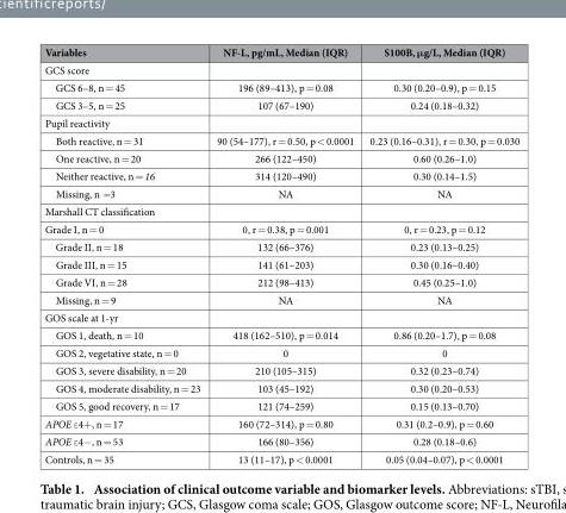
<table><thead><tr><td>Variables</td><td>NF-L, pg/mL, Median (IQR)</td><td>S100B, μg/L, Median (IQR)</td></tr></thead><tbody><tr><td colspan="3">GCS score</td></tr><tr><td>GCS 6–8, n = 45</td><td>196 (89–413), p = 0.08</td><td>0.30 (0.20–0.9), p = 0.15</td></tr><tr><td>GCS 3–5, n = 25</td><td>107 (67–190)</td><td>0.24 (0.18–0.32)</td></tr><tr><td colspan="3">Pupil reactivity</td></tr><tr><td>Both reactive, n = 31</td><td>90 (54–177), r = 0.50, p &lt; 0.0001</td><td>0.23 (0.16–0.31), r = 0.30, p = 0.030</td></tr><tr><td>One reactive, n = 20</td><td>266 (122–450)</td><td>0.60 (0.26–1.0)</td></tr><tr><td>Neither reactive, n = 16</td><td>314 (120–490)</td><td>0.30 (0.14–1.5)</td></tr><tr><td>Missing, n =3</td><td>NA</td><td>NA</td></tr><tr><td colspan="3">Marshall CT classification</td></tr><tr><td>Grade I, n = 0</td><td>0, r = 0.38, p = 0.001</td><td>0, r = 0.23, p = 0.12</td></tr><tr><td>Grade II, n = 18</td><td>132 (66–376)</td><td>0.23 (0.13–0.25)</td></tr><tr><td>Grade III, n = 15</td><td>141 (61–203)</td><td>0.30 (0.16–0.40)</td></tr><tr><td>Grade VI, n = 28</td><td>212 (98–413)</td><td>0.45 (0.25–1.0)</td></tr><tr><td>Missing, n = 9</td><td>NA</td><td>NA</td></tr><tr><td colspan="3">GOS scale at 1-yr</td></tr><tr><td>GOS 1, death, n = 10</td><td>418 (162–510), p = 0.014</td><td>0.86 (0.20–1.7), p = 0.08</td></tr><tr><td>GOS 2, vegetative state, n = 0</td><td>0</td><td>0</td></tr><tr><td>GOS 3, severe disability, n = 20</td><td>210 (105–315)</td><td>0.32 (0.23–0.74)</td></tr><tr><td>GOS 4, moderate disability, n = 23</td><td>103 (45–192)</td><td>0.30 (0.20–0.53)</td></tr><tr><td>GOS 5, good recovery, n = 17</td><td>121 (74–259)</td><td>0.15 (0.13–0.70)</td></tr><tr><td>APOE ε 4+ , n = 17</td><td>160 (72–314), p = 0.80</td><td>0.31 (0.2–0.9), p = 0.60</td></tr><tr><td>APOE ε 4− , n = 53</td><td>166 (80–356)</td><td>0.28 (0.18–0.6)</td></tr><tr><td>Controls, n = 35</td><td>13 (11–17), p &lt; 0.0001</td><td>0.05 (0.04–0.07), p &lt; 0.0001</td></tr></tbody></table>